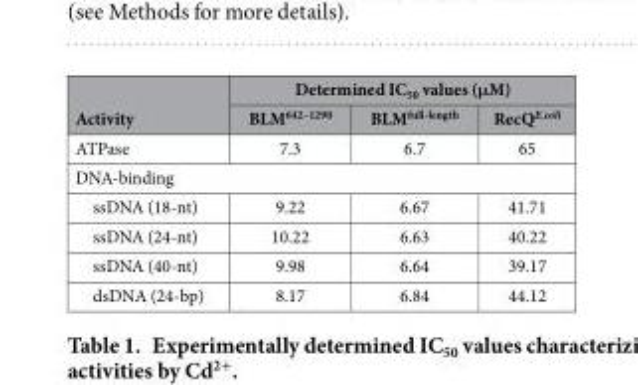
<table><thead><tr><td rowspan="2">Activity</td><td colspan="3">Determined IC<sub>50</sub> values (μM)</td></tr><tr><td>BLM<sup>642–1290</sup></td><td>BLM<sup>full-length</sup></td><td>RecQ<sup>E.coli</sup></td></tr></thead><tbody><tr><td>ATPase</td><td>7.3</td><td>6.7</td><td>65</td></tr><tr><td colspan="4">DNA-binding</td></tr><tr><td>ssDNA (18-nt)</td><td>9.22</td><td>6.67</td><td>41.71</td></tr><tr><td>ssDNA (24-nt)</td><td>10.22</td><td>6.63</td><td>40.22</td></tr><tr><td>ssDNA (40-nt)</td><td>9.98</td><td>6.64</td><td>39.17</td></tr><tr><td>dsDNA (24-bp)</td><td>8.17</td><td>6.84</td><td>44.12</td></tr></tbody></table>